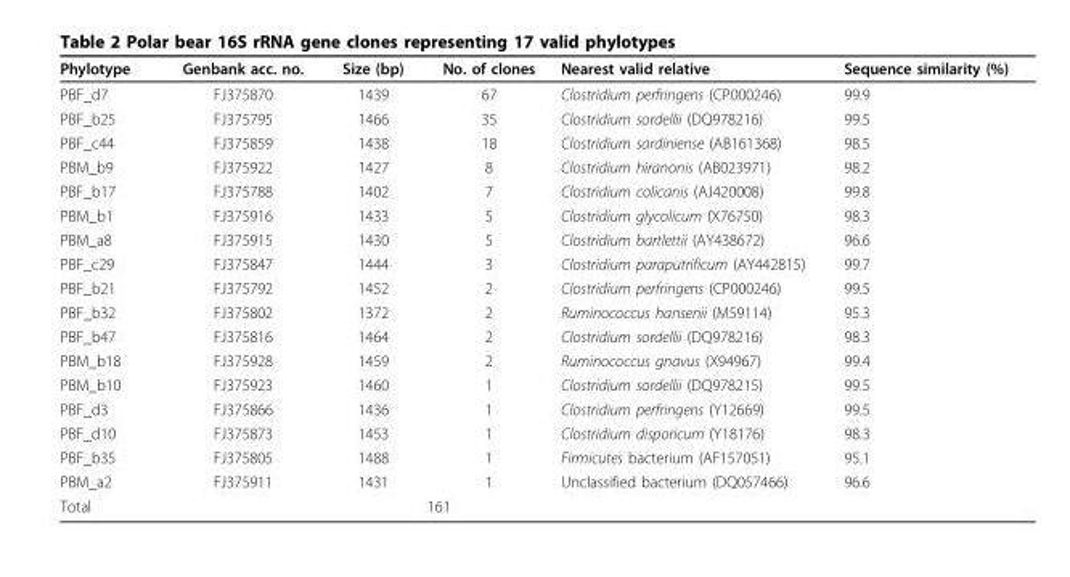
<table><thead><tr><td>Phylotype</td><td>Genbank acc. no.</td><td>Size (bp)</td><td>No. of clones</td><td>Nearest valid relative</td><td>Sequence similarity (%)</td></tr></thead><tbody><tr><td>PBF_d7</td><td>FJ375870</td><td>1439</td><td>67</td><td>Clostridium perfringens (CP000246)</td><td>99.9</td></tr><tr><td>PBF_b25</td><td>FJ375795</td><td>1466</td><td>35</td><td>Clostridium sordellii (DQ978216)</td><td>99.5</td></tr><tr><td>PBF_c44</td><td>FJ375859</td><td>1438</td><td>18</td><td>Clostridium sardiniense (AB161368)</td><td>98.5</td></tr><tr><td>PBM_b9</td><td>FJ375922</td><td>1427</td><td>8</td><td>Clostridium hiranonis (AB023971)</td><td>98.2</td></tr><tr><td>PBF_b17</td><td>FJ375788</td><td>1402</td><td>7</td><td>Clostridium colicanis (AJ420008)</td><td>99.8</td></tr><tr><td>PBM_b1</td><td>FJ375916</td><td>1433</td><td>5</td><td>Clostridium glycolicum (X76750)</td><td>98.3</td></tr><tr><td>PBM_a8</td><td>FJ375915</td><td>1430</td><td>5</td><td>Clostridium bartlettii (AY438672)</td><td>96.6</td></tr><tr><td>PBF_c29</td><td>FJ375847</td><td>1444</td><td>3</td><td>Clostridium paraputrificum (AY442815)</td><td>99.7</td></tr><tr><td>PBF_b21</td><td>FJ375792</td><td>1452</td><td>2</td><td>Clostridium perfringens (CP000246)</td><td>99.5</td></tr><tr><td>PBF_b32</td><td>FJ375802</td><td>1372</td><td>2</td><td>Ruminococcus hansenii (M59114)</td><td>95.3</td></tr><tr><td>PBF_b47</td><td>FJ375816</td><td>1464</td><td>2</td><td>Clostridium sordellii (DQ978216)</td><td>98.3</td></tr><tr><td>PBM_b18</td><td>FJ375928</td><td>1459</td><td>2</td><td>Ruminococcus gnavus (X94967)</td><td>99.4</td></tr><tr><td>PBM_b10</td><td>FJ375923</td><td>1460</td><td>1</td><td>Clostridium sordellii (DQ978215)</td><td>99.5</td></tr><tr><td>PBF_d3</td><td>FJ375866</td><td>1436</td><td>1</td><td>Clostridium perfringens (Y12669)</td><td>99.5</td></tr><tr><td>PBF_d10</td><td>FJ375873</td><td>1453</td><td>1</td><td>Clostridium disporicum (Y18176)</td><td>98.3</td></tr><tr><td>PBF_b35</td><td>FJ375805</td><td>1488</td><td>1</td><td>Firmicutes bacterium (AF157051)</td><td>95.1</td></tr><tr><td>PBM_a2</td><td>FJ375911</td><td>1431</td><td>1</td><td>Unclassified bacterium (DQ057466)</td><td>96.6</td></tr><tr><td>Total</td><td></td><td colspan="2">161</td><td></td><td></td></tr></tbody></table>